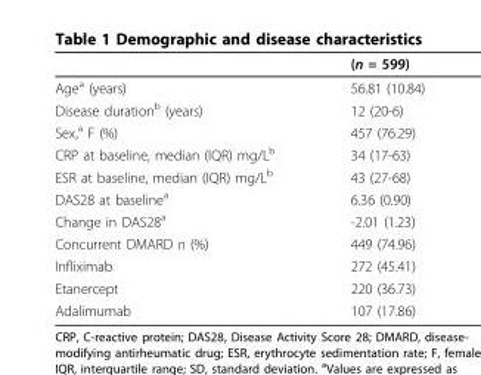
<table><thead><tr><td></td><td>(n = 599)</td></tr></thead><tbody><tr><td>Age<sup>a</sup> (years)</td><td>56.81 (10.84)</td></tr><tr><td>Disease duration<sup>b</sup> (years)</td><td>12 (20-6)</td></tr><tr><td>Sex,<sup>a</sup> F (%)</td><td>457 (76.29)</td></tr><tr><td>CRP at baseline, median (IQR) mg/L<sup>b</sup></td><td>34 (17-63)</td></tr><tr><td>ESR at baseline, median (IQR) mg/L<sup>b</sup></td><td>43 (27-68)</td></tr><tr><td>DAS28 at baseline<sup>a</sup></td><td>6.36 (0.90)</td></tr><tr><td>Change in DAS28<sup>a</sup></td><td>-2.01 (1.23)</td></tr><tr><td>Concurrent DMARD n (%)</td><td>449 (74.96)</td></tr><tr><td>Infliximab</td><td>272 (45.41)</td></tr><tr><td>Etanercept</td><td>220 (36.73)</td></tr><tr><td>Adalimumab</td><td>107 (17.86)</td></tr></tbody></table>